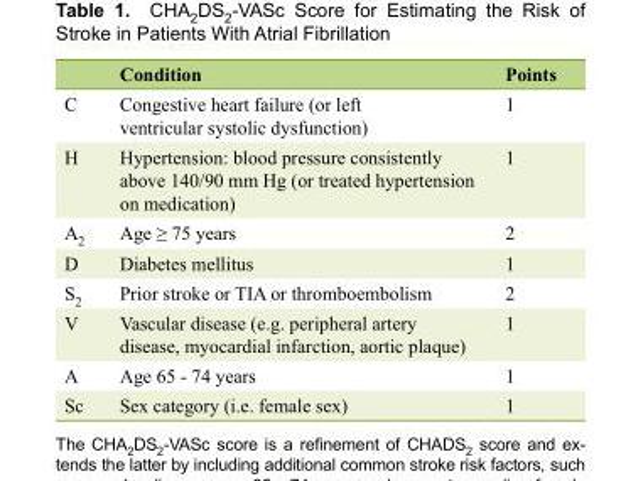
<table><thead><tr><td></td><td>Condition</td><td>Points</td></tr></thead><tbody><tr><td>C</td><td>Congestive heart failure (or left ventricular systolic dysfunction)</td><td>1</td></tr><tr><td>H</td><td>Hypertension: blood pressure consistently above 140/90 mm Hg (or treated hypertension on medication)</td><td>1</td></tr><tr><td>A2</td><td>Age ≥ 75 years</td><td>2</td></tr><tr><td>D</td><td>Diabetes mellitus</td><td>1</td></tr><tr><td>S2</td><td>Prior stroke or TIA or thromboembolism</td><td>2</td></tr><tr><td>V</td><td>Vascular disease (e.g. peripheral artery disease, myocardial infarction, aortic plaque)</td><td>1</td></tr><tr><td>A</td><td>Age 65 - 74 years</td><td>1</td></tr><tr><td>Sc</td><td>Sex category (i.e. female sex)</td><td>1</td></tr></tbody></table>